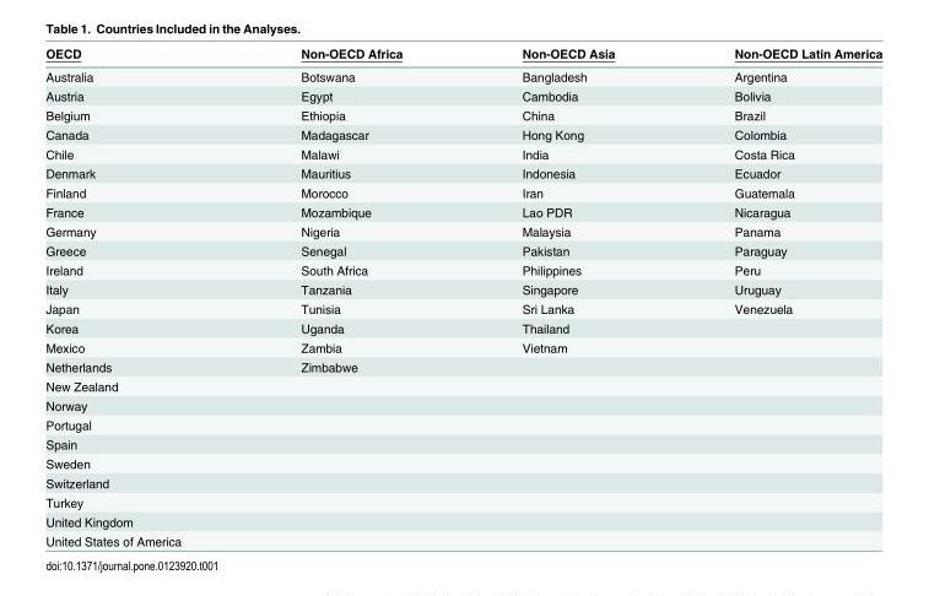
<table><thead><tr><td>OECD</td><td>Non-OECD Africa</td><td>Non-OECD Asia</td><td>Non-OECD Latin America</td></tr></thead><tbody><tr><td>Australia</td><td>Botswana</td><td>Bangladesh</td><td>Argentina</td></tr><tr><td>Austria</td><td>Egypt</td><td>Cambodia</td><td>Bolivia</td></tr><tr><td>Belgium</td><td>Ethiopia</td><td>China</td><td>Brazil</td></tr><tr><td>Canada</td><td>Madagascar</td><td>Hong Kong</td><td>Colombia</td></tr><tr><td>Chile</td><td>Malawi</td><td>India</td><td>Costa Rica</td></tr><tr><td>Denmark</td><td>Mauritius</td><td>Indonesia</td><td>Ecuador</td></tr><tr><td>Finland</td><td>Morocco</td><td>Iran</td><td>Guatemala</td></tr><tr><td>France</td><td>Mozambique</td><td>Lao PDR</td><td>Nicaragua</td></tr><tr><td>Germany</td><td>Nigeria</td><td>Malaysia</td><td>Panama</td></tr><tr><td>Greece</td><td>Senegal</td><td>Pakistan</td><td>Paraguay</td></tr><tr><td>Ireland</td><td>South Africa</td><td>Philippines</td><td>Peru</td></tr><tr><td>Italy</td><td>Tanzania</td><td>Singapore</td><td>Uruguay</td></tr><tr><td>Japan</td><td>Tunisia</td><td>Sri Lanka</td><td>Venezuela</td></tr><tr><td>Korea</td><td>Uganda</td><td>Thailand</td><td></td></tr><tr><td>Mexico</td><td>Zambia</td><td>Vietnam</td><td></td></tr><tr><td>Netherlands</td><td>Zimbabwe</td><td></td><td></td></tr><tr><td colspan="4">New Zealand</td></tr><tr><td colspan="4">Norway</td></tr><tr><td colspan="4">Portugal</td></tr><tr><td colspan="4">Spain</td></tr><tr><td colspan="4">Sweden</td></tr><tr><td colspan="4">Switzerland</td></tr><tr><td colspan="4">Turkey</td></tr><tr><td colspan="4">United Kingdom</td></tr><tr><td>United States of America</td><td></td><td></td><td></td></tr></tbody></table>